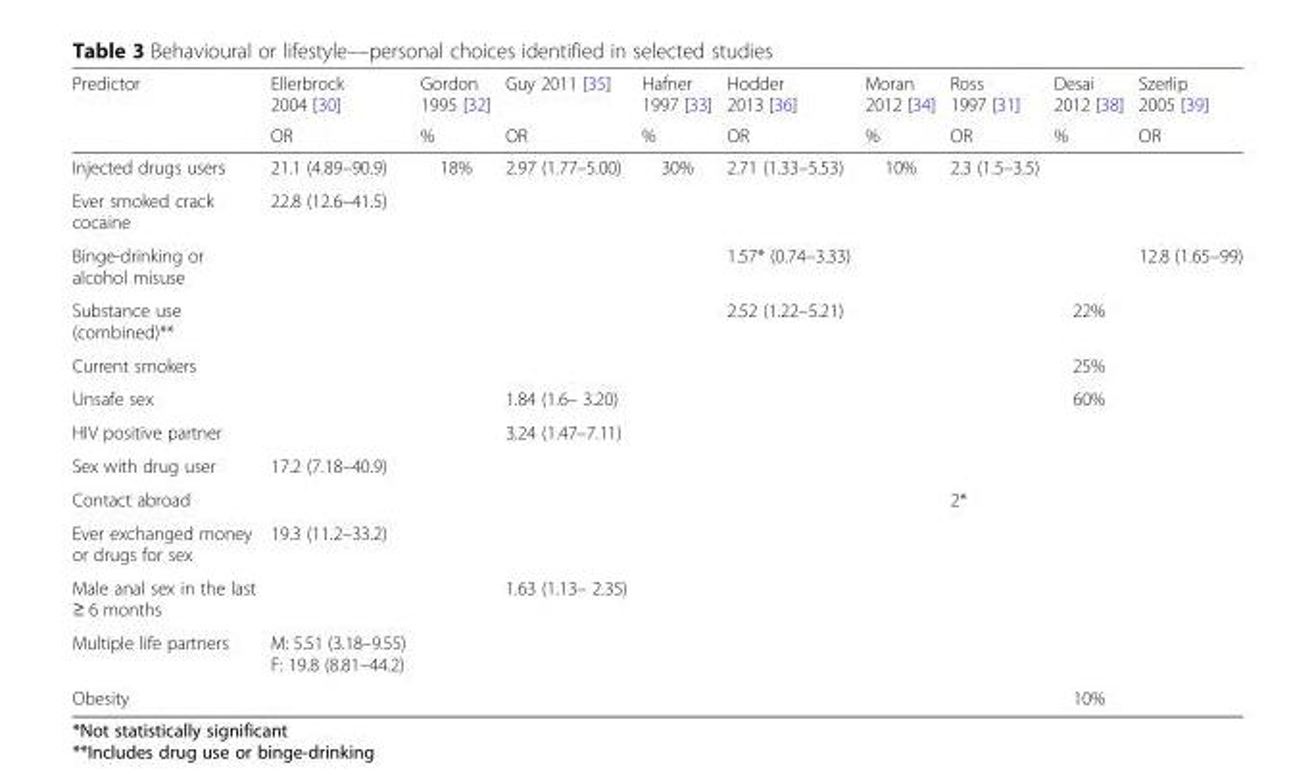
<table><thead><tr><td rowspan="2">Predictor</td><td rowspan="2">Ellerbrock 2004 [30] OR</td><td rowspan="2">Gordon 1995 [32] %</td><td rowspan="2">Guy 2011 [35] OR</td><td rowspan="2">Hafner 1997 [33] %</td><td rowspan="2">Hodder 2013 [36] OR</td><td rowspan="2">Moran 2012 [34] %</td><td rowspan="2">Ross 1997 [31] OR</td><td rowspan="2">Desai 2012 [38] %</td><td rowspan="2">Szerlip 2005 [39] OR</td></tr><tr></tr></thead><tbody><tr><td>Injected drugs users</td><td>21.1 (4.89–90.9)</td><td>18%</td><td>2.97 (1.77–5.00)</td><td>30%</td><td>2.71 (1.33–5.53)</td><td>10%</td><td>2.3 (1.5–3.5)</td><td></td><td></td></tr><tr><td>Ever smoked crack cocaine</td><td>22.8 (12.6–41.5)</td><td></td><td></td><td></td><td></td><td></td><td></td><td></td><td></td></tr><tr><td>Binge-drinking or alcohol misuse</td><td></td><td></td><td></td><td></td><td>1.57* (0.74–3.33)</td><td></td><td></td><td></td><td>12.8 (1.65–99)</td></tr><tr><td>Substance use (combined)**</td><td></td><td></td><td></td><td></td><td>2.52 (1.22–5.21)</td><td></td><td></td><td>22%</td><td></td></tr><tr><td>Current smokers</td><td></td><td></td><td></td><td></td><td></td><td></td><td></td><td>25%</td><td></td></tr><tr><td>Unsafe sex</td><td></td><td></td><td>1.84 (1.6– 3.20)</td><td></td><td></td><td></td><td></td><td>60%</td><td></td></tr><tr><td>HIV positive partner</td><td></td><td></td><td>3.24 (1.47–7.11)</td><td></td><td></td><td></td><td></td><td></td><td></td></tr><tr><td>Sex with drug user</td><td>17.2 (7.18–40.9)</td><td></td><td></td><td></td><td></td><td></td><td></td><td></td><td></td></tr><tr><td>Contact abroad</td><td></td><td></td><td></td><td></td><td></td><td></td><td>2*</td><td></td><td></td></tr><tr><td>Ever exchanged money or drugs for sex</td><td>19.3 (11.2–33.2)</td><td></td><td></td><td></td><td></td><td></td><td></td><td></td><td></td></tr><tr><td>Male anal sex in the last ≥ 6 months</td><td></td><td></td><td>1.63 (1.13– 2.35)</td><td></td><td></td><td></td><td></td><td></td><td></td></tr><tr><td>Multiple life partners</td><td>M: 5.51 (3.18–9.55) F: 19.8 (8.81–44.2)</td><td></td><td></td><td></td><td></td><td></td><td></td><td></td><td></td></tr><tr><td>Obesity</td><td></td><td></td><td></td><td></td><td></td><td></td><td></td><td>10%</td><td></td></tr></tbody></table>